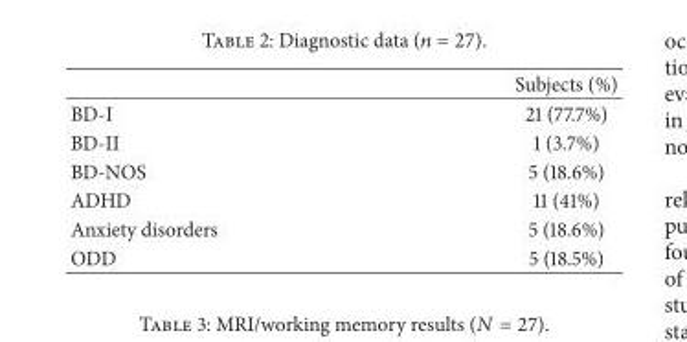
<table><thead><tr><td></td><td>Subjects (%)</td></tr></thead><tbody><tr><td>BD-I</td><td>21 (77.7%)</td></tr><tr><td>BD-II</td><td>1 (3.7%)</td></tr><tr><td>BD-NOS</td><td>5 (18.6%)</td></tr><tr><td>ADHD</td><td>11 (41%)</td></tr><tr><td>Anxiety disorders</td><td>5 (18.6%)</td></tr><tr><td>ODD</td><td>5 (18.5%)</td></tr></tbody></table>